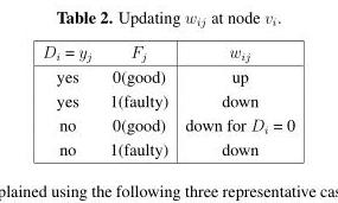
<table><thead><tr><td>D<sub>i</sub> = y<sub>j</sub></td><td>F<sub>j</sub></td><td>w<sub>ij</sub></td></tr></thead><tbody><tr><td>yes</td><td>0(good)</td><td>up</td></tr><tr><td>yes</td><td>1(faulty)</td><td>down</td></tr><tr><td>no</td><td>0(good)</td><td>down for D<sub>i</sub> = 0</td></tr><tr><td>no</td><td>1(faulty)</td><td>down</td></tr></tbody></table>